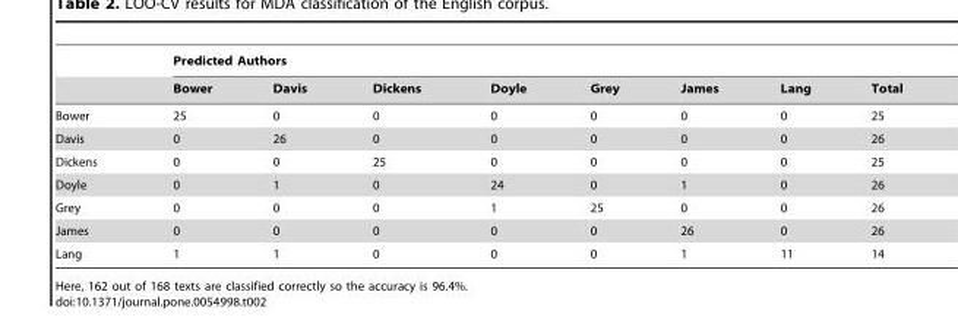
<table><thead><tr><td rowspan="2"></td><td colspan="8">Predicted Authors</td></tr><tr><td>Bower</td><td>Davis</td><td>Dickens</td><td>Doyle</td><td>Grey</td><td>James</td><td>Lang</td><td>Total</td></tr></thead><tbody><tr><td>Bower</td><td>25</td><td>0</td><td>0</td><td>0</td><td>0</td><td>0</td><td>0</td><td>25</td></tr><tr><td>Davis</td><td>0</td><td>26</td><td>0</td><td>0</td><td>0</td><td>0</td><td>0</td><td>26</td></tr><tr><td>Dickens</td><td>0</td><td>0</td><td>25</td><td>0</td><td>0</td><td>0</td><td>0</td><td>25</td></tr><tr><td>Doyle</td><td>0</td><td>1</td><td>0</td><td>24</td><td>0</td><td>1</td><td>0</td><td>26</td></tr><tr><td>Grey</td><td>0</td><td>0</td><td>0</td><td>1</td><td>25</td><td>0</td><td>0</td><td>26</td></tr><tr><td>James</td><td>0</td><td>0</td><td>0</td><td>0</td><td>0</td><td>26</td><td>0</td><td>26</td></tr><tr><td>Lang</td><td>1</td><td>1</td><td>0</td><td>0</td><td>0</td><td>1</td><td>11</td><td>14</td></tr></tbody></table>